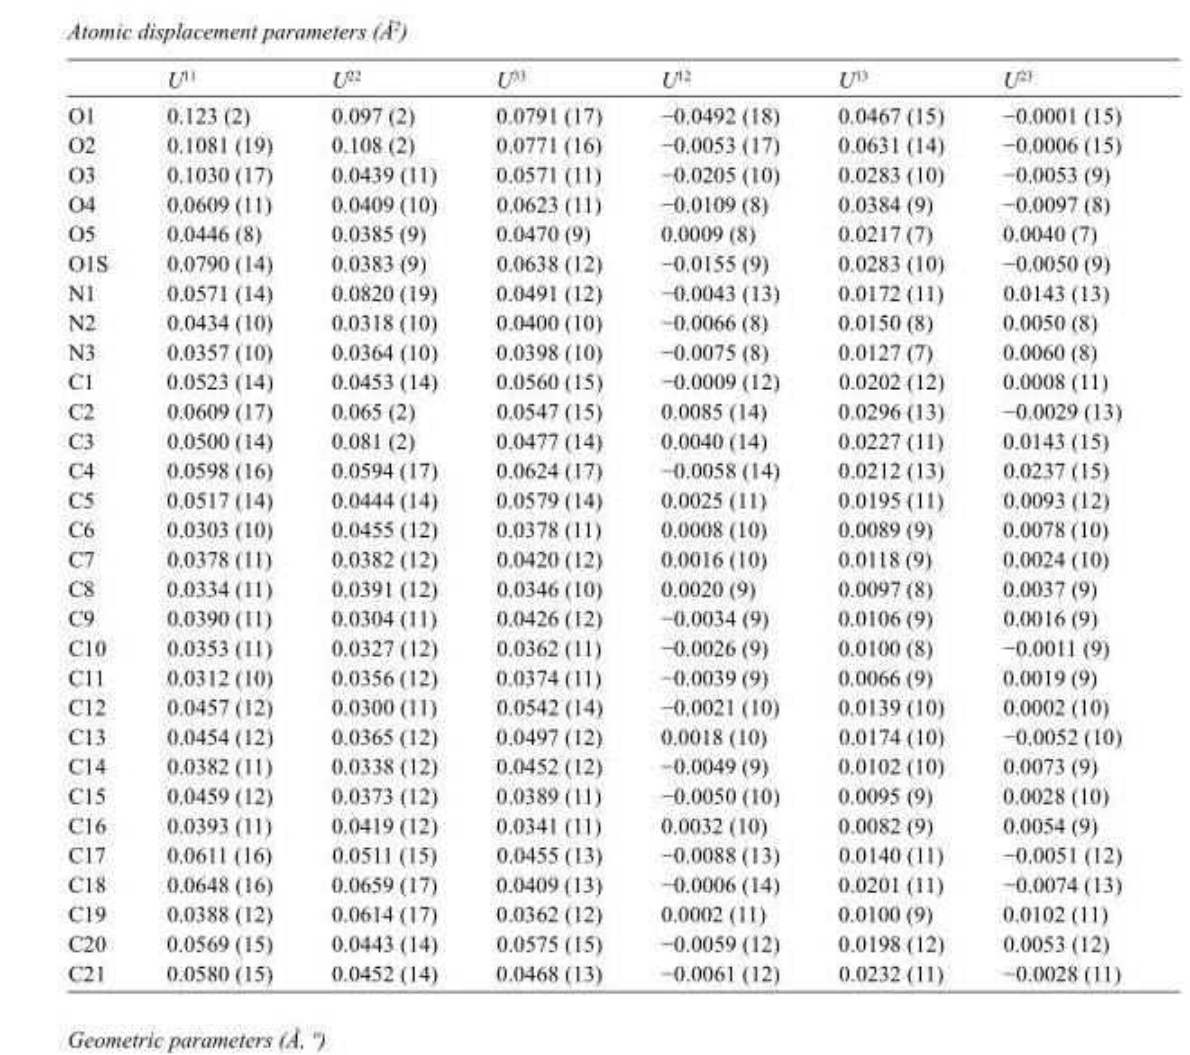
<table><thead><tr><td></td><td>U<sup>11</sup></td><td>U<sup>22</sup></td><td>U<sup>33</sup></td><td>U<sup>12</sup></td><td>U<sup>13</sup></td><td>U<sup>23</sup></td></tr></thead><tbody><tr><td>O1</td><td>0.123 (2)</td><td>0.097 (2)</td><td>0.0791 (17)</td><td>−0.0492 (18)</td><td>0.0467 (15)</td><td>−0.0001 (15)</td></tr><tr><td>O2</td><td>0.1081 (19)</td><td>0.108 (2)</td><td>0.0771 (16)</td><td>−0.0053 (17)</td><td>0.0631 (14)</td><td>−0.0006 (15)</td></tr><tr><td>O3</td><td>0.1030 (17)</td><td>0.0439 (11)</td><td>0.0571 (11)</td><td>−0.0205 (10)</td><td>0.0283 (10)</td><td>−0.0053 (9)</td></tr><tr><td>O4</td><td>0.0609 (11)</td><td>0.0409 (10)</td><td>0.0623 (11)</td><td>−0.0109 (8)</td><td>0.0384 (9)</td><td>−0.0097 (8)</td></tr><tr><td>O5</td><td>0.0446 (8)</td><td>0.0385 (9)</td><td>0.0470 (9)</td><td>0.0009 (8)</td><td>0.0217 (7)</td><td>0.0040 (7)</td></tr><tr><td>O1S</td><td>0.0790 (14)</td><td>0.0383 (9)</td><td>0.0638 (12)</td><td>−0.0155 (9)</td><td>0.0283 (10)</td><td>−0.0050 (9)</td></tr><tr><td>N1</td><td>0.0571 (14)</td><td>0.0820 (19)</td><td>0.0491 (12)</td><td>−0.0043 (13)</td><td>0.0172 (11)</td><td>0.0143 (13)</td></tr><tr><td>N2</td><td>0.0434 (10)</td><td>0.0318 (10)</td><td>0.0400 (10)</td><td>−0.0066 (8)</td><td>0.0150 (8)</td><td>0.0050 (8)</td></tr><tr><td>N3</td><td>0.0357 (10)</td><td>0.0364 (10)</td><td>0.0398 (10)</td><td>−0.0075 (8)</td><td>0.0127 (7)</td><td>0.0060 (8)</td></tr><tr><td>C1</td><td>0.0523 (14)</td><td>0.0453 (14)</td><td>0.0560 (15)</td><td>−0.0009 (12)</td><td>0.0202 (12)</td><td>0.0008 (11)</td></tr><tr><td>C2</td><td>0.0609 (17)</td><td>0.065 (2)</td><td>0.0547 (15)</td><td>0.0085 (14)</td><td>0.0296 (13)</td><td>−0.0029 (13)</td></tr><tr><td>C3</td><td>0.0500 (14)</td><td>0.081 (2)</td><td>0.0477 (14)</td><td>0.0040 (14)</td><td>0.0227 (11)</td><td>0.0143 (15)</td></tr><tr><td>C4</td><td>0.0598 (16)</td><td>0.0594 (17)</td><td>0.0624 (17)</td><td>−0.0058 (14)</td><td>0.0212 (13)</td><td>0.0237 (15)</td></tr><tr><td>C5</td><td>0.0517 (14)</td><td>0.0444 (14)</td><td>0.0579 (14)</td><td>0.0025 (11)</td><td>0.0195 (11)</td><td>0.0093 (12)</td></tr><tr><td>C6</td><td>0.0303 (10)</td><td>0.0455 (12)</td><td>0.0378 (11)</td><td>0.0008 (10)</td><td>0.0089 (9)</td><td>0.0078 (10)</td></tr><tr><td>C7</td><td>0.0378 (11)</td><td>0.0382 (12)</td><td>0.0420 (12)</td><td>0.0016 (10)</td><td>0.0118 (9)</td><td>0.0024 (10)</td></tr><tr><td>C8</td><td>0.0334 (11)</td><td>0.0391 (12)</td><td>0.0346 (10)</td><td>0.0020 (9)</td><td>0.0097 (8)</td><td>0.0037 (9)</td></tr><tr><td>C9</td><td>0.0390 (11)</td><td>0.0304 (11)</td><td>0.0426 (12)</td><td>−0.0034 (9)</td><td>0.0106 (9)</td><td>0.0016 (9)</td></tr><tr><td>C10</td><td>0.0353 (11)</td><td>0.0327 (12)</td><td>0.0362 (11)</td><td>−0.0026 (9)</td><td>0.0100 (8)</td><td>−0.0011 (9)</td></tr><tr><td>C11</td><td>0.0312 (10)</td><td>0.0356 (12)</td><td>0.0374 (11)</td><td>−0.0039 (9)</td><td>0.0066 (9)</td><td>0.0019 (9)</td></tr><tr><td>C12</td><td>0.0457 (12)</td><td>0.0300 (11)</td><td>0.0542 (14)</td><td>−0.0021 (10)</td><td>0.0139 (10)</td><td>0.0002 (10)</td></tr><tr><td>C13</td><td>0.0454 (12)</td><td>0.0365 (12)</td><td>0.0497 (12)</td><td>0.0018 (10)</td><td>0.0174 (10)</td><td>−0.0052 (10)</td></tr><tr><td>C14</td><td>0.0382 (11)</td><td>0.0338 (12)</td><td>0.0452 (12)</td><td>−0.0049 (9)</td><td>0.0102 (10)</td><td>0.0073 (9)</td></tr><tr><td>C15</td><td>0.0459 (12)</td><td>0.0373 (12)</td><td>0.0389 (11)</td><td>−0.0050 (10)</td><td>0.0095 (9)</td><td>0.0028 (10)</td></tr><tr><td>C16</td><td>0.0393 (11)</td><td>0.0419 (12)</td><td>0.0341 (11)</td><td>0.0032 (10)</td><td>0.0082 (9)</td><td>0.0054 (9)</td></tr><tr><td>C17</td><td>0.0611 (16)</td><td>0.0511 (15)</td><td>0.0455 (13)</td><td>−0.0088 (13)</td><td>0.0140 (11)</td><td>−0.0051 (12)</td></tr><tr><td>C18</td><td>0.0648 (16)</td><td>0.0659 (17)</td><td>0.0409 (13)</td><td>−0.0006 (14)</td><td>0.0201 (11)</td><td>−0.0074 (13)</td></tr><tr><td>C19</td><td>0.0388 (12)</td><td>0.0614 (17)</td><td>0.0362 (12)</td><td>0.0002 (11)</td><td>0.0100 (9)</td><td>0.0102 (11)</td></tr><tr><td>C20</td><td>0.0569 (15)</td><td>0.0443 (14)</td><td>0.0575 (15)</td><td>−0.0059 (12)</td><td>0.0198 (12)</td><td>0.0053 (12)</td></tr><tr><td>C21</td><td>0.0580 (15)</td><td>0.0452 (14)</td><td>0.0468 (13)</td><td>−0.0061 (12)</td><td>0.0232 (11)</td><td>−0.0028 (11)</td></tr></tbody></table>